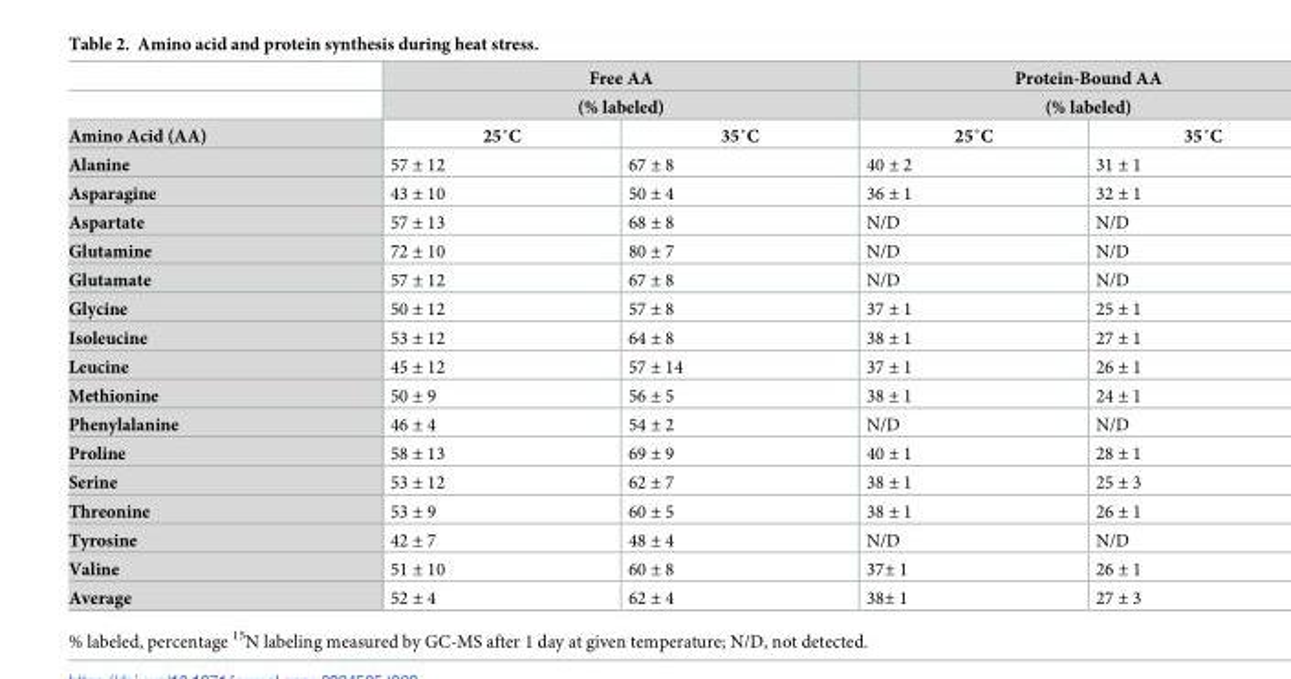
<table><thead><tr><td rowspan="3">Amino Acid (AA)</td><td rowspan="2" colspan="2">Free AA (% labeled)</td><td rowspan="2" colspan="2">Protein-Bound AA (% labeled)</td></tr><tr></tr><tr><td>25˚C</td><td>35˚C</td><td>25˚C</td><td>35˚C</td></tr></thead><tbody><tr><td>Alanine</td><td>57 ± 12</td><td>67 ± 8</td><td>40 ± 2</td><td>31 ± 1</td></tr><tr><td>Asparagine</td><td>43 ± 10</td><td>50 ± 4</td><td>36 ± 1</td><td>32 ± 1</td></tr><tr><td>Aspartate</td><td>57 ± 13</td><td>68 ± 8</td><td>N/D</td><td>N/D</td></tr><tr><td>Glutamine</td><td>72 ± 10</td><td>80 ± 7</td><td>N/D</td><td>N/D</td></tr><tr><td>Glutamate</td><td>57 ± 12</td><td>67 ± 8</td><td>N/D</td><td>N/D</td></tr><tr><td>Glycine</td><td>50 ± 12</td><td>57 ± 8</td><td>37 ± 1</td><td>25 ± 1</td></tr><tr><td>Isoleucine</td><td>53 ± 12</td><td>64 ± 8</td><td>38 ± 1</td><td>27 ± 1</td></tr><tr><td>Leucine</td><td>45 ± 12</td><td>57 ± 14</td><td>37 ± 1</td><td>26 ± 1</td></tr><tr><td>Methionine</td><td>50 ± 9</td><td>56 ± 5</td><td>38 ± 1</td><td>24 ± 1</td></tr><tr><td>Phenylalanine</td><td>46 ± 4</td><td>54 ± 2</td><td>N/D</td><td>N/D</td></tr><tr><td>Proline</td><td>58 ± 13</td><td>69 ± 9</td><td>40 ± 1</td><td>28 ± 1</td></tr><tr><td>Serine</td><td>53 ± 12</td><td>62 ± 7</td><td>38 ± 1</td><td>25 ± 3</td></tr><tr><td>Threonine</td><td>53 ± 9</td><td>60 ± 5</td><td>38 ± 1</td><td>26 ± 1</td></tr><tr><td>Tyrosine</td><td>42 ± 7</td><td>48 ± 4</td><td>N/D</td><td>N/D</td></tr><tr><td>Valine</td><td>51 ± 10</td><td>60 ± 8</td><td>37± 1</td><td>26 ± 1</td></tr><tr><td>Average</td><td>52 ± 4</td><td>62 ± 4</td><td>38± 1</td><td>27 ± 3</td></tr></tbody></table>